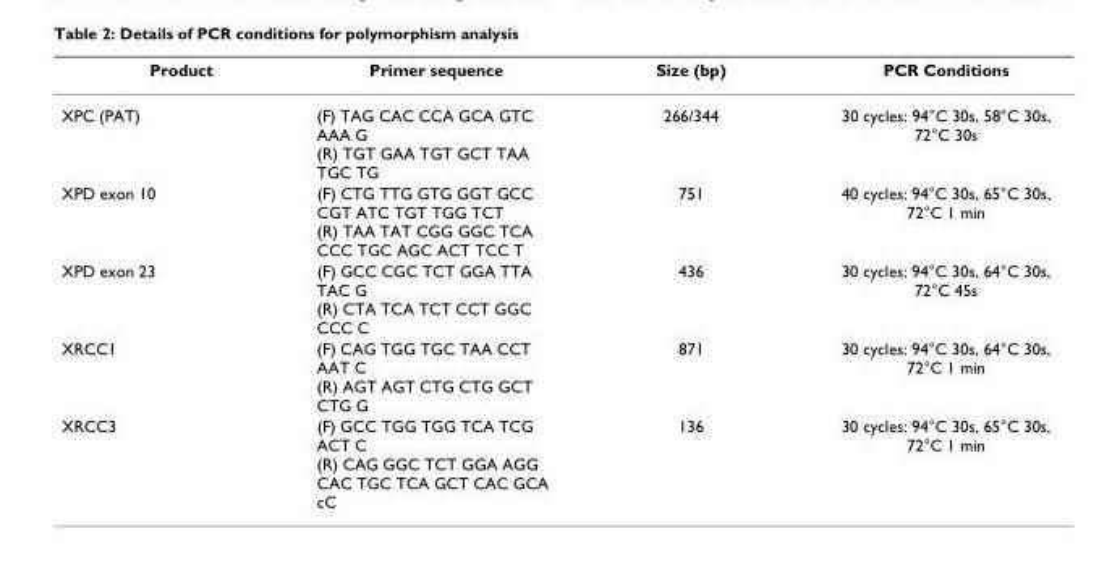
<table><thead><tr><td>Product</td><td>Primer sequence</td><td>Size (bp)</td><td>PCR Conditions</td></tr></thead><tbody><tr><td>XPC (PAT)</td><td>(F) TAG CAC CCA GCA GTC AAA G (R) TGT GAA TGT GCT TAA TGC TG</td><td>266/344</td><td>30 cycles: 94°C 30s, 58°C 30s, 72°C 30s</td></tr><tr><td>XPD exon 10</td><td>(F) CTG TTG GTG GGT GCC CGT ATC TGT TGG TCT (R) TAA TAT CGG GGC TCA CCC TGC AGC ACT TCC T</td><td>751</td><td>40 cycles: 94°C 30s, 65°C 30s, 72°C 1 min</td></tr><tr><td>XPD exon 23</td><td>(F) GCC CGC TCT GGA TTA TAC G (R) CTA TCA TCT CCT GGC CCC C</td><td>436</td><td>30 cycles: 94°C 30s, 64°C 30s, 72°C 45s</td></tr><tr><td>XRCC1</td><td>(F) CAG TGG TGC TAA CCT AAT C (R) AGT AGT CTG CTG GCT CTG G</td><td>871</td><td>30 cycles: 94°C 30s, 64°C 30s, 72°C 1 min</td></tr><tr><td>XRCC3</td><td>(F) GCC TGG TGG TCA TCG ACT C (R) CAG GGC TCT GGA AGG CAC TGC TCA GCT CAC GCA cC</td><td>136</td><td>30 cycles: 94°C 30s, 65°C 30s, 72°C 1 min</td></tr></tbody></table>